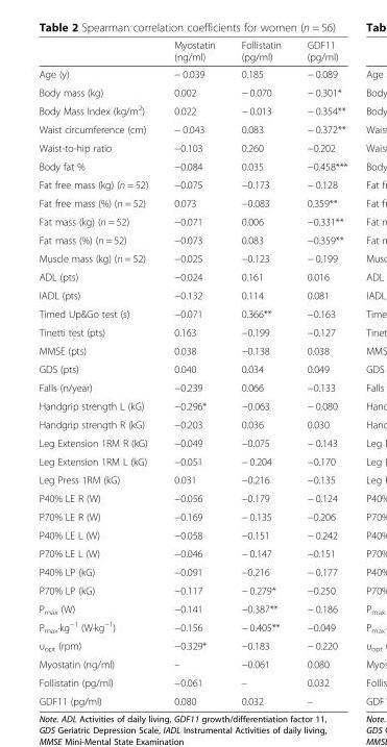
<table><thead><tr><td></td><td>Myostatin (ng/ml)</td><td>Follistatin (pg/ml)</td><td>GDF11 (pg/ml)</td></tr></thead><tbody><tr><td>Age (y)</td><td>− 0.039</td><td>0.185</td><td>− 0.089</td></tr><tr><td>Body mass (kg)</td><td>0.002</td><td>− 0.070</td><td>− 0.301*</td></tr><tr><td>Body Mass Index (kg/m<sup>2</sup>)</td><td>0.022</td><td>− 0.013</td><td>− 0.354**</td></tr><tr><td>Waist circumference (cm)</td><td>− 0.043</td><td>0.083</td><td>− 0.372**</td></tr><tr><td>Waist-to-hip ratio</td><td>−0.103</td><td>0.260</td><td>−0.202</td></tr><tr><td>Body fat %</td><td>−0.084</td><td>0.035</td><td>−0.458***</td></tr><tr><td>Fat free mass (kg) (n = 52)</td><td>−0.075</td><td>−0.173</td><td>− 0.128</td></tr><tr><td>Fat free mass (%) (n = 52)</td><td>0.073</td><td>−0.083</td><td>0.359**</td></tr><tr><td>Fat mass (kg) (n = 52)</td><td>−0.071</td><td>0.006</td><td>−0.331**</td></tr><tr><td>Fat mass (%) (n = 52)</td><td>−0.073</td><td>0.083</td><td>−0.359**</td></tr><tr><td>Muscle mass (kg) (n = 52)</td><td>−0.025</td><td>−0.123</td><td>− 0.199</td></tr><tr><td>ADL (pts)</td><td>−0.024</td><td>0.161</td><td>0.016</td></tr><tr><td>IADL (pts)</td><td>−0.132</td><td>0.114</td><td>0.081</td></tr><tr><td>Timed Up&amp;Go test (s)</td><td>−0.071</td><td>0.366**</td><td>−0.163</td></tr><tr><td>Tinetti test (pts)</td><td>0.163</td><td>−0.199</td><td>−0.127</td></tr><tr><td>MMSE (pts)</td><td>0.038</td><td>−0.138</td><td>0.038</td></tr><tr><td>GDS (pts)</td><td>0.040</td><td>0.034</td><td>0.049</td></tr><tr><td>Falls (n/year)</td><td>−0.239</td><td>0.066</td><td>−0.133</td></tr><tr><td>Handgrip strength L (kG)</td><td>−0.296*</td><td>−0.063</td><td>− 0.080</td></tr><tr><td>Handgrip strength R (kG)</td><td>−0.203</td><td>0.036</td><td>0.030</td></tr><tr><td>Leg Extension 1RM R (kG)</td><td>−0.049</td><td>−0.075</td><td>− 0.143</td></tr><tr><td>Leg Extension 1RM L (kG)</td><td>−0.051</td><td>− 0.204</td><td>−0.170</td></tr><tr><td>Leg Press 1RM (kG)</td><td>0.031</td><td>−0.216</td><td>−0.135</td></tr><tr><td>P40% LE R (W)</td><td>−0.056</td><td>−0.179</td><td>− 0.124</td></tr><tr><td>P70% LE R (W)</td><td>−0.169</td><td>− 0.135</td><td>−0.206</td></tr><tr><td>P40% LE L (W)</td><td>−0.058</td><td>−0.151</td><td>− 0.242</td></tr><tr><td>P70% LE L (W)</td><td>−0.046</td><td>− 0.147</td><td>−0.151</td></tr><tr><td>P40% LP (kG)</td><td>−0.091</td><td>−0.216</td><td>− 0.177</td></tr><tr><td>P70% LP (kG)</td><td>−0.117</td><td>− 0.279*</td><td>−0.250</td></tr><tr><td>P<sub>max</sub> (W)</td><td>−0.141</td><td>−0.387**</td><td>− 0.186</td></tr><tr><td>P<sub>max</sub>·kg<sup>−1</sup> (W·kg<sup>−1</sup>)</td><td>−0.156</td><td>− 0.405**</td><td>−0.049</td></tr><tr><td>υ<sub>opt</sub> (rpm)</td><td>−0.329*</td><td>−0.183</td><td>− 0.220</td></tr><tr><td>Myostatin (ng/ml)</td><td>–</td><td>−0.061</td><td>0.080</td></tr><tr><td>Follistatin (pg/ml)</td><td>−0.061</td><td>–</td><td>0.032</td></tr><tr><td>GDF11 (pg/ml)</td><td>0.080</td><td>0.032</td><td>–</td></tr></tbody></table>